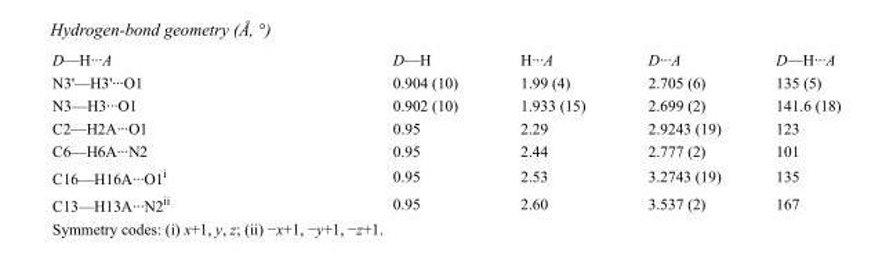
<table><tbody><tr><td>D—H···A</td><td>D—H</td><td>H···A</td><td>D···A</td><td>D—H···A</td></tr><tr><td>N3&#x27;—H3&#x27;···O1</td><td>0.904 (10)</td><td>1.99 (4)</td><td>2.705 (6)</td><td>135 (5)</td></tr><tr><td>N3—H3···O1</td><td>0.902 (10)</td><td>1.933 (15)</td><td>2.699 (2)</td><td>141.6 (18)</td></tr><tr><td>C2—H2A···O1</td><td>0.95</td><td>2.29</td><td>2.9243 (19)</td><td>123</td></tr><tr><td>C6—H6A···N2</td><td>0.95</td><td>2.44</td><td>2.777 (2)</td><td>101</td></tr><tr><td>C16—H16A···O1<sup>i</sup></td><td>0.95</td><td>2.53</td><td>3.2743 (19)</td><td>135</td></tr><tr><td>C13—H13A···N2<sup>ii</sup></td><td>0.95</td><td>2.60</td><td>3.537 (2)</td><td>167</td></tr></tbody></table>